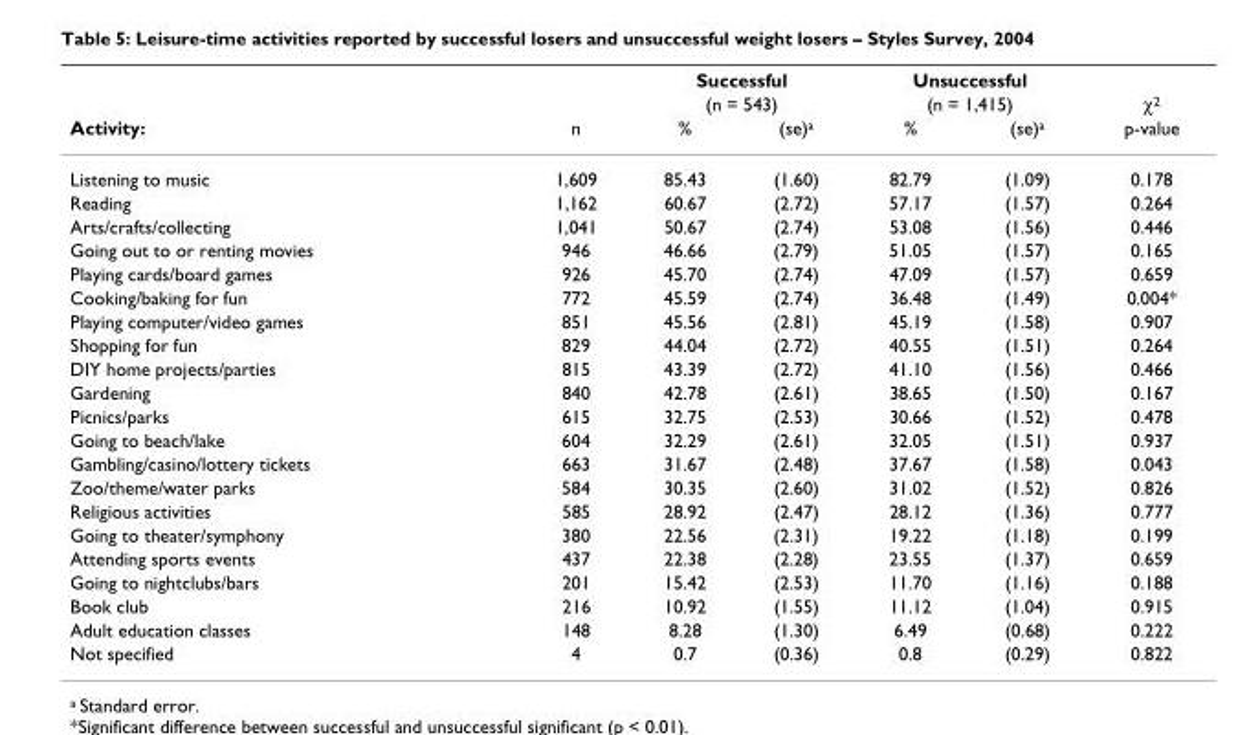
<table><thead><tr><td rowspan="3">Activity:</td><td rowspan="3">n</td><td rowspan="2" colspan="2">Successful (n = 543)</td><td rowspan="2" colspan="2">Unsuccessful (n = 1,415)</td><td rowspan="3">χ<sup>2</sup> p-value</td></tr><tr></tr><tr><td>%</td><td>(se)<sup>a</sup></td><td>%</td><td>(se)<sup>a</sup></td></tr></thead><tbody><tr><td>Listening to music</td><td>1,609</td><td>85.43</td><td>(1.60)</td><td>82.79</td><td>(1.09)</td><td>0.178</td></tr><tr><td>Reading</td><td>1,162</td><td>60.67</td><td>(2.72)</td><td>57.17</td><td>(1.57)</td><td>0.264</td></tr><tr><td>Arts/crafts/collecting</td><td>1,041</td><td>50.67</td><td>(2.74)</td><td>53.08</td><td>(1.56)</td><td>0.446</td></tr><tr><td>Going out to or renting movies</td><td>946</td><td>46.66</td><td>(2.79)</td><td>51.05</td><td>(1.57)</td><td>0.165</td></tr><tr><td>Playing cards/board games</td><td>926</td><td>45.70</td><td>(2.74)</td><td>47.09</td><td>(1.57)</td><td>0.659</td></tr><tr><td>Cooking/baking for fun</td><td>772</td><td>45.59</td><td>(2.74)</td><td>36.48</td><td>(1.49)</td><td>0.004*</td></tr><tr><td>Playing computer/video games</td><td>851</td><td>45.56</td><td>(2.81)</td><td>45.19</td><td>(1.58)</td><td>0.907</td></tr><tr><td>Shopping for fun</td><td>829</td><td>44.04</td><td>(2.72)</td><td>40.55</td><td>(1.51)</td><td>0.264</td></tr><tr><td>DIY home projects/parties</td><td>815</td><td>43.39</td><td>(2.72)</td><td>41.10</td><td>(1.56)</td><td>0.466</td></tr><tr><td>Gardening</td><td>840</td><td>42.78</td><td>(2.61)</td><td>38.65</td><td>(1.50)</td><td>0.167</td></tr><tr><td>Picnics/parks</td><td>615</td><td>32.75</td><td>(2.53)</td><td>30.66</td><td>(1.52)</td><td>0.478</td></tr><tr><td>Going to beach/lake</td><td>604</td><td>32.29</td><td>(2.61)</td><td>32.05</td><td>(1.51)</td><td>0.937</td></tr><tr><td>Gambling/casino/lottery tickets</td><td>663</td><td>31.67</td><td>(2.48)</td><td>37.67</td><td>(1.58)</td><td>0.043</td></tr><tr><td>Zoo/theme/water parks</td><td>584</td><td>30.35</td><td>(2.60)</td><td>31.02</td><td>(1.52)</td><td>0.826</td></tr><tr><td>Religious activities</td><td>585</td><td>28.92</td><td>(2.47)</td><td>28.12</td><td>(1.36)</td><td>0.777</td></tr><tr><td>Going to theater/symphony</td><td>380</td><td>22.56</td><td>(2.31)</td><td>19.22</td><td>(1.18)</td><td>0.199</td></tr><tr><td>Attending sports events</td><td>437</td><td>22.38</td><td>(2.28)</td><td>23.55</td><td>(1.37)</td><td>0.659</td></tr><tr><td>Going to nightclubs/bars</td><td>201</td><td>15.42</td><td>(2.53)</td><td>11.70</td><td>(1.16)</td><td>0.188</td></tr><tr><td>Book club</td><td>216</td><td>10.92</td><td>(1.55)</td><td>11.12</td><td>(1.04)</td><td>0.915</td></tr><tr><td>Adult education classes</td><td>148</td><td>8.28</td><td>(1.30)</td><td>6.49</td><td>(0.68)</td><td>0.222</td></tr><tr><td>Not specified</td><td>4</td><td>0.7</td><td>(0.36)</td><td>0.8</td><td>(0.29)</td><td>0.822</td></tr></tbody></table>